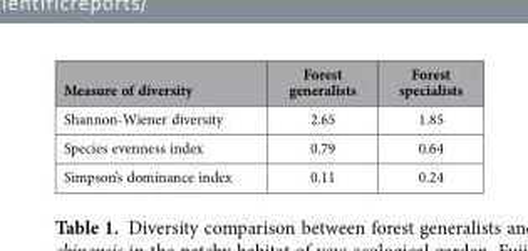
<table><thead><tr><td>Measure of diversity</td><td>Forest generalists</td><td>Forest specialists</td></tr></thead><tbody><tr><td>Shannon-Wiener diversity</td><td>2.65</td><td>1.85</td></tr><tr><td>Species evenness index</td><td>0.79</td><td>0.64</td></tr><tr><td>Simpson’s dominance index</td><td>0.11</td><td>0.24</td></tr></tbody></table>